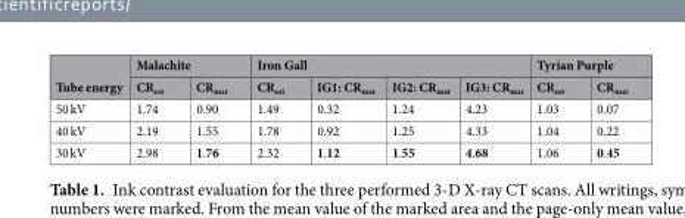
<table><thead><tr><td rowspan="2">Tube energy</td><td colspan="2">Malachite</td><td colspan="4">Iron Gall</td><td colspan="2">Tyrian Purple</td></tr><tr><td>CR<sub>est</sub></td><td>CR<sub>msr</sub></td><td>CR<sub>est</sub></td><td>IG1: CR<sub>msr</sub></td><td>IG2: CR<sub>msr</sub></td><td>IG3: CR<sub>msr</sub></td><td>CR<sub>est</sub></td><td>CR<sub>msr</sub></td></tr></thead><tbody><tr><td>50 kV</td><td>1.74</td><td>0.90</td><td>1.49</td><td>0.32</td><td>1.24</td><td>4.23</td><td>1.03</td><td>0.07</td></tr><tr><td>40 kV</td><td>2.19</td><td>1.55</td><td>1.78</td><td>0.92</td><td>1.25</td><td>4.33</td><td>1.04</td><td>0.22</td></tr><tr><td>30 kV</td><td>2.98</td><td>1.76</td><td>2.32</td><td>1.12</td><td>1.55</td><td>4.68</td><td>1.06</td><td>0.45</td></tr></tbody></table>